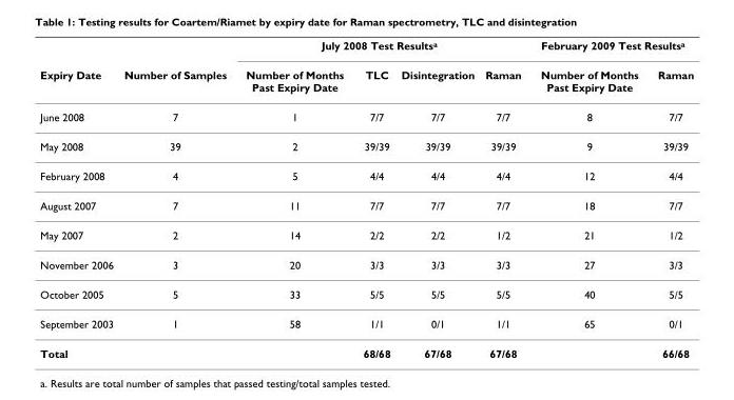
<table><thead><tr><td rowspan="2">Expiry Date</td><td rowspan="2">Number of Samples</td><td colspan="4">July 2008 Test Results<sup>a</sup></td><td colspan="2">February 2009 Test Results<sup>a</sup></td></tr><tr><td>Number of Months Past Expiry Date</td><td>TLC</td><td>Disintegration</td><td>Raman</td><td>Number of Months Past Expiry Date</td><td>Raman</td></tr></thead><tbody><tr><td>June 2008</td><td>7</td><td>1</td><td>7/7</td><td>7/7</td><td>7/7</td><td>8</td><td>7/7</td></tr><tr><td>May 2008</td><td>39</td><td>2</td><td>39/39</td><td>39/39</td><td>39/39</td><td>9</td><td>39/39</td></tr><tr><td>February 2008</td><td>4</td><td>5</td><td>4/4</td><td>4/4</td><td>4/4</td><td>12</td><td>4/4</td></tr><tr><td>August 2007</td><td>7</td><td>11</td><td>7/7</td><td>7/7</td><td>7/7</td><td>18</td><td>7/7</td></tr><tr><td>May 2007</td><td>2</td><td>14</td><td>2/2</td><td>2/2</td><td>1/2</td><td>21</td><td>1/2</td></tr><tr><td>November 2006</td><td>3</td><td>20</td><td>3/3</td><td>3/3</td><td>3/3</td><td>27</td><td>3/3</td></tr><tr><td>October 2005</td><td>5</td><td>33</td><td>5/5</td><td>5/5</td><td>5/5</td><td>40</td><td>5/5</td></tr><tr><td>September 2003</td><td>1</td><td>58</td><td>1/1</td><td>0/1</td><td>1/1</td><td>65</td><td>0/1</td></tr><tr><td>Total</td><td></td><td></td><td>68/68</td><td>67/68</td><td>67/68</td><td></td><td>66/68</td></tr></tbody></table>